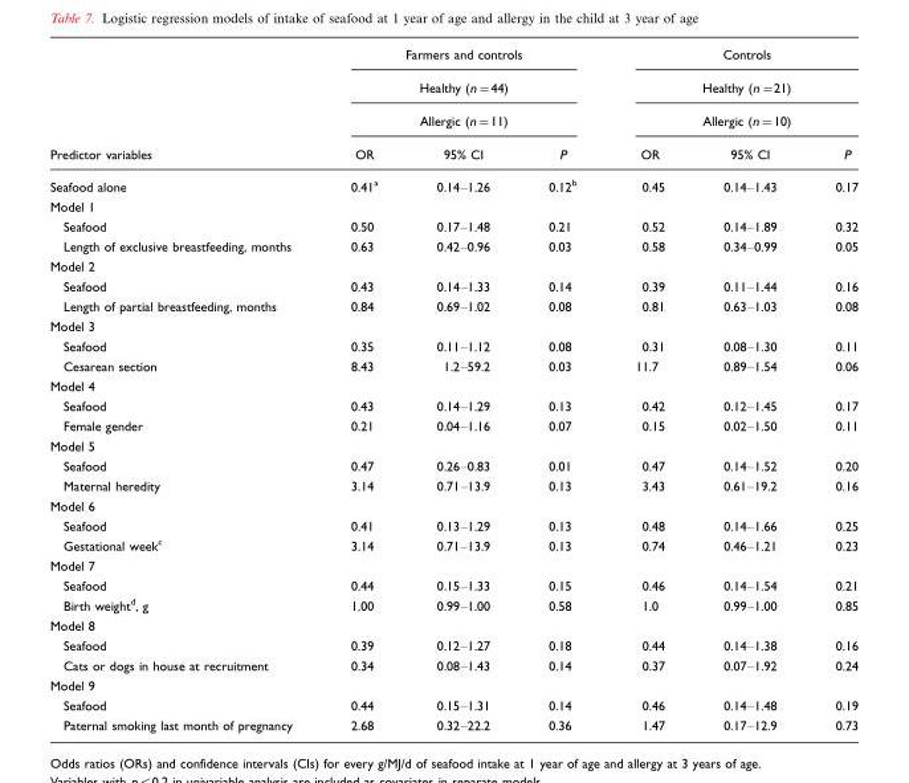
<table><thead><tr><td rowspan="4">Predictor variables</td><td rowspan="3" colspan="3">Farmers and controls Healthy (n=44) Allergic (n=11)</td><td rowspan="3" colspan="3">Controls Healthy (n=21) Allergic (n=10)</td></tr><tr></tr><tr></tr><tr><td>OR</td><td>95% CI</td><td>P</td><td>OR</td><td>95% CI</td><td>P</td></tr></thead><tbody><tr><td>Seafood alone</td><td>0.41<sup>a</sup></td><td>0.14–1.26</td><td>0.12<sup>b</sup></td><td>0.45</td><td>0.14–1.43</td><td>0.17</td></tr><tr><td colspan="7">Model 1</td></tr><tr><td>Seafood</td><td>0.50</td><td>0.17–1.48</td><td>0.21</td><td>0.52</td><td>0.14–1.89</td><td>0.32</td></tr><tr><td>Length of exclusive breastfeeding, months</td><td>0.63</td><td>0.42–0.96</td><td>0.03</td><td>0.58</td><td>0.34–0.99</td><td>0.05</td></tr><tr><td colspan="7">Model 2</td></tr><tr><td>Seafood</td><td>0.43</td><td>0.14–1.33</td><td>0.14</td><td>0.39</td><td>0.11–1.44</td><td>0.16</td></tr><tr><td>Length of partial breastfeeding, months</td><td>0.84</td><td>0.69–1.02</td><td>0.08</td><td>0.81</td><td>0.63–1.03</td><td>0.08</td></tr><tr><td colspan="7">Model 3</td></tr><tr><td>Seafood</td><td>0.35</td><td>0.11–1.12</td><td>0.08</td><td>0.31</td><td>0.08–1.30</td><td>0.11</td></tr><tr><td>Cesarean section</td><td>8.43</td><td>1.2–59.2</td><td>0.03</td><td>11.7</td><td>0.89–1.54</td><td>0.06</td></tr><tr><td colspan="7">Model 4</td></tr><tr><td>Seafood</td><td>0.43</td><td>0.14–1.29</td><td>0.13</td><td>0.42</td><td>0.12–1.45</td><td>0.17</td></tr><tr><td>Female gender</td><td>0.21</td><td>0.04–1.16</td><td>0.07</td><td>0.15</td><td>0.02–1.50</td><td>0.11</td></tr><tr><td colspan="7">Model 5</td></tr><tr><td>Seafood</td><td>0.47</td><td>0.26–0.83</td><td>0.01</td><td>0.47</td><td>0.14–1.52</td><td>0.20</td></tr><tr><td>Maternal heredity</td><td>3.14</td><td>0.71–13.9</td><td>0.13</td><td>3.43</td><td>0.61–19.2</td><td>0.16</td></tr><tr><td colspan="7">Model 6</td></tr><tr><td>Seafood</td><td>0.41</td><td>0.13–1.29</td><td>0.13</td><td>0.48</td><td>0.14–1.66</td><td>0.25</td></tr><tr><td>Gestational week<sup>c</sup></td><td>3.14</td><td>0.71–13.9</td><td>0.13</td><td>0.74</td><td>0.46–1.21</td><td>0.23</td></tr><tr><td colspan="7">Model 7</td></tr><tr><td>Seafood</td><td>0.44</td><td>0.15–1.33</td><td>0.15</td><td>0.46</td><td>0.14–1.54</td><td>0.21</td></tr><tr><td>Birth weight<sup>d</sup>, g</td><td>1.00</td><td>0.99–1.00</td><td>0.58</td><td>1.0</td><td>0.99–1.00</td><td>0.85</td></tr><tr><td colspan="7">Model 8</td></tr><tr><td>Seafood</td><td>0.39</td><td>0.12–1.27</td><td>0.18</td><td>0.44</td><td>0.14–1.38</td><td>0.16</td></tr><tr><td>Cats or dogs in house at recruitment</td><td>0.34</td><td>0.08–1.43</td><td>0.14</td><td>0.37</td><td>0.07–1.92</td><td>0.24</td></tr><tr><td colspan="7">Model 9</td></tr><tr><td>Seafood</td><td>0.44</td><td>0.15–1.31</td><td>0.14</td><td>0.46</td><td>0.14–1.48</td><td>0.19</td></tr><tr><td>Paternal smoking last month of pregnancy</td><td>2.68</td><td>0.32–22.2</td><td>0.36</td><td>1.47</td><td>0.17–12.9</td><td>0.73</td></tr></tbody></table>